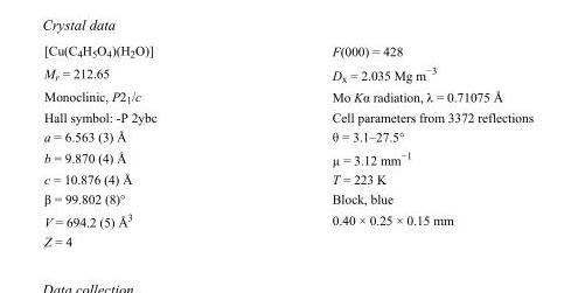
<table><tbody><tr><td>[Cu(C<sub>4</sub>H<sub>5</sub>O<sub>4</sub>)(H<sub>2</sub>O)]</td><td>F(000) = 428</td></tr><tr><td>M<sub>r</sub> = 212.65</td><td>D<sub>x</sub> = 2.035 Mg m<sup>−3</sup></td></tr><tr><td>Monoclinic, P2<sub>1</sub>/c</td><td>Mo Kα radiation, λ = 0.71075 Å</td></tr><tr><td>Hall symbol: -P 2ybc</td><td>Cell parameters from 3372 reflections</td></tr><tr><td>a = 6.563 (3) Å</td><td>θ = 3.1–27.5°</td></tr><tr><td>b = 9.870 (4) Å</td><td>µ = 3.12 mm<sup>−1</sup></td></tr><tr><td>c = 10.876 (4) Å</td><td>T = 223 K</td></tr><tr><td>β = 99.802 (8)°</td><td>Block, blue</td></tr><tr><td>V = 694.2 (5) Å<sup>3</sup></td><td>0.40 × 0.25 × 0.15 mm</td></tr><tr><td>Z = 4</td><td></td></tr></tbody></table>